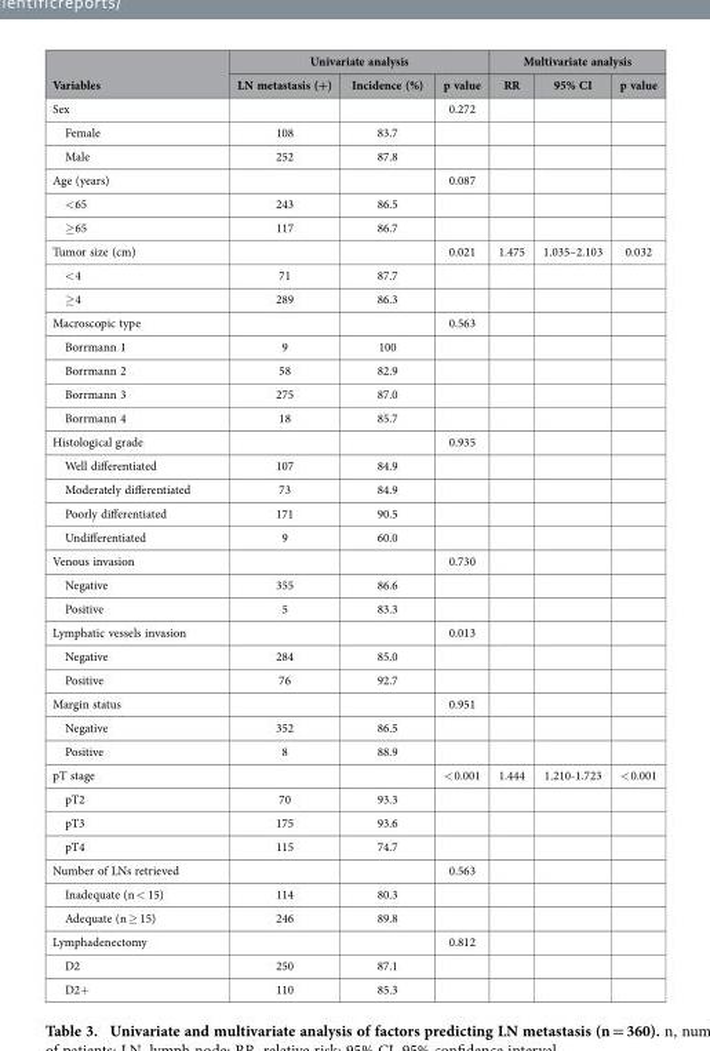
<table><thead><tr><td rowspan="2">Variables</td><td colspan="3">Univariate analysis</td><td colspan="3">Multivariate analysis</td></tr><tr><td>LN metastasis (+)</td><td>Incidence (%)</td><td>p value</td><td>RR</td><td>95% CI</td><td>p value</td></tr></thead><tbody><tr><td>Sex</td><td></td><td></td><td>0.272</td><td></td><td></td><td></td></tr><tr><td>Female</td><td>108</td><td>83.7</td><td></td><td></td><td></td><td></td></tr><tr><td>Male</td><td>252</td><td>87.8</td><td></td><td></td><td></td><td></td></tr><tr><td>Age (years)</td><td></td><td></td><td>0.087</td><td></td><td></td><td></td></tr><tr><td>&lt; 65</td><td>243</td><td>86.5</td><td></td><td></td><td></td><td></td></tr><tr><td>≥ 65</td><td>117</td><td>86.7</td><td></td><td></td><td></td><td></td></tr><tr><td>Tumor size (cm)</td><td></td><td></td><td>0.021</td><td>1.475</td><td>1.035–2.103</td><td>0.032</td></tr><tr><td>&lt; 4</td><td>71</td><td>87.7</td><td></td><td></td><td></td><td></td></tr><tr><td>≥ 4</td><td>289</td><td>86.3</td><td></td><td></td><td></td><td></td></tr><tr><td>Macroscopic type</td><td></td><td></td><td>0.563</td><td></td><td></td><td></td></tr><tr><td>Borrmann 1</td><td>9</td><td>100</td><td></td><td></td><td></td><td></td></tr><tr><td>Borrmann 2</td><td>58</td><td>82.9</td><td></td><td></td><td></td><td></td></tr><tr><td>Borrmann 3</td><td>275</td><td>87.0</td><td></td><td></td><td></td><td></td></tr><tr><td>Borrmann 4</td><td>18</td><td>85.7</td><td></td><td></td><td></td><td></td></tr><tr><td>Histological grade</td><td></td><td></td><td>0.935</td><td></td><td></td><td></td></tr><tr><td>Well differentiated</td><td>107</td><td>84.9</td><td></td><td></td><td></td><td></td></tr><tr><td>Moderately differentiated</td><td>73</td><td>84.9</td><td></td><td></td><td></td><td></td></tr><tr><td>Poorly differentiated</td><td>171</td><td>90.5</td><td></td><td></td><td></td><td></td></tr><tr><td>Undifferentiated</td><td>9</td><td>60.0</td><td></td><td></td><td></td><td></td></tr><tr><td>Venous invasion</td><td></td><td></td><td>0.730</td><td></td><td></td><td></td></tr><tr><td>Negative</td><td>355</td><td>86.6</td><td></td><td></td><td></td><td></td></tr><tr><td>Positive</td><td>5</td><td>83.3</td><td></td><td></td><td></td><td></td></tr><tr><td>Lymphatic vessels invasion</td><td></td><td></td><td>0.013</td><td></td><td></td><td></td></tr><tr><td>Negative</td><td>284</td><td>85.0</td><td></td><td></td><td></td><td></td></tr><tr><td>Positive</td><td>76</td><td>92.7</td><td></td><td></td><td></td><td></td></tr><tr><td>Margin status</td><td></td><td></td><td>0.951</td><td></td><td></td><td></td></tr><tr><td>Negative</td><td>352</td><td>86.5</td><td></td><td></td><td></td><td></td></tr><tr><td>Positive</td><td>8</td><td>88.9</td><td></td><td></td><td></td><td></td></tr><tr><td>pT stage</td><td></td><td></td><td>&lt; 0.001</td><td>1.444</td><td>1.210-1.723</td><td>&lt; 0.001</td></tr><tr><td>pT2</td><td>70</td><td>93.3</td><td></td><td></td><td></td><td></td></tr><tr><td>pT3</td><td>175</td><td>93.6</td><td></td><td></td><td></td><td></td></tr><tr><td>pT4</td><td>115</td><td>74.7</td><td></td><td></td><td></td><td></td></tr><tr><td>Number of LNs retrieved</td><td></td><td></td><td>0.563</td><td></td><td></td><td></td></tr><tr><td>Inadequate (n &lt; 15)</td><td>114</td><td>80.3</td><td></td><td></td><td></td><td></td></tr><tr><td>Adequate (n ≥ 15)</td><td>246</td><td>89.8</td><td></td><td></td><td></td><td></td></tr><tr><td>Lymphadenectomy</td><td></td><td></td><td>0.812</td><td></td><td></td><td></td></tr><tr><td>D2</td><td>250</td><td>87.1</td><td></td><td></td><td></td><td></td></tr><tr><td>D2+</td><td>110</td><td>85.3</td><td></td><td></td><td></td><td></td></tr></tbody></table>